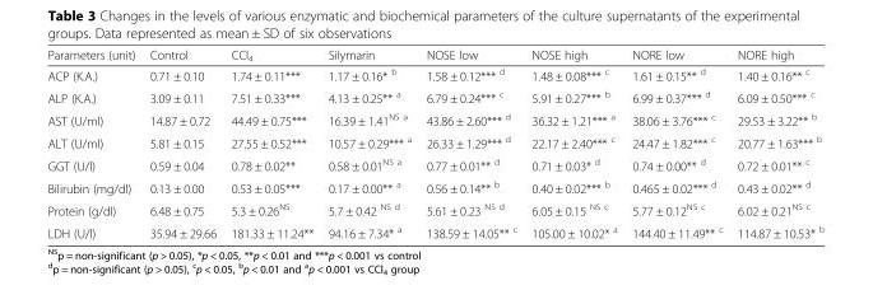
<table><thead><tr><td>Parameters (unit)</td><td>Control</td><td>CCl<sub>4</sub></td><td>Silymarin</td><td>NOSE low</td><td>NOSE high</td><td>NORE low</td><td>NORE high</td></tr></thead><tbody><tr><td>ACP (K.A.)</td><td>0.71 ± 0.10</td><td>1.74 ± 0.11***</td><td>1.17 ± 0.16* <sup>b</sup></td><td>1.58 ± 0.12*** <sup>d</sup></td><td>1.48 ± 0.08*** <sup>c</sup></td><td>1.61 ± 0.15** <sup>d</sup></td><td>1.40 ± 0.16** <sup>c</sup></td></tr><tr><td>ALP (K.A.)</td><td>3.09 ± 0.11</td><td>7.51 ± 0.33***</td><td>4.13 ± 0.25** <sup>a</sup></td><td>6.79 ± 0.24*** <sup>c</sup></td><td>5.91 ± 0.27*** <sup>b</sup></td><td>6.99 ± 0.37*** <sup>d</sup></td><td>6.09 ± 0.50*** <sup>c</sup></td></tr><tr><td>AST (U/ml)</td><td>14.87 ± 0.72</td><td>44.49 ± 0.75***</td><td>16.39 ± 1.41<sup>NS a</sup></td><td>43.86 ± 2.60*** <sup>d</sup></td><td>36.32 ± 1.21*** <sup>a</sup></td><td>38.06 ± 3.76*** <sup>c</sup></td><td>29.53 ± 3.22** <sup>b</sup></td></tr><tr><td>ALT (U/ml)</td><td>5.81 ± 0.15</td><td>27.55 ± 0.52***</td><td>10.57 ± 0.29*** <sup>a</sup></td><td>26.33 ± 1.29*** <sup>d</sup></td><td>22.17 ± 2.40*** <sup>c</sup></td><td>24.47 ± 1.82*** <sup>c</sup></td><td>20.77 ± 1.63*** <sup>b</sup></td></tr><tr><td>GGT (U/l)</td><td>0.59 ± 0.04</td><td>0.78 ± 0.02**</td><td>0.58 ± 0.01<sup>NS a</sup></td><td>0.77 ± 0.01** <sup>d</sup></td><td>0.71 ± 0.03* <sup>d</sup></td><td>0.74 ± 0.00** <sup>d</sup></td><td>0.72 ± 0.01** <sup>c</sup></td></tr><tr><td>Bilirubin (mg/dl)</td><td>0.13 ± 0.00</td><td>0.53 ± 0.05***</td><td>0.17 ± 0.00** <sup>a</sup></td><td>0.56 ± 0.14** <sup>b</sup></td><td>0.40 ± 0.02*** <sup>b</sup></td><td>0.465 ± 0.02*** <sup>d</sup></td><td>0.43 ± 0.02** <sup>d</sup></td></tr><tr><td>Protein (g/dl)</td><td>6.48 ± 0.75</td><td>5.3 ± 0.26<sup>NS</sup></td><td>5.7 ± 0.42 <sup>NS d</sup></td><td>5.61 ± 0.23 <sup>NS d</sup></td><td>6.05 ± 0.15 <sup>NS c</sup></td><td>5.77 ± 0.12<sup>NS c</sup></td><td>6.02 ± 0.21<sup>NS c</sup></td></tr><tr><td>LDH (U/l)</td><td>35.94 ± 29.66</td><td>181.33 ± 11.24**</td><td>94.16 ± 7.34* <sup>a</sup></td><td>138.59 ± 14.05** <sup>c</sup></td><td>105.00 ± 10.02* <sup>a</sup></td><td>144.40 ± 11.49** <sup>c</sup></td><td>114.87 ± 10.53* <sup>b</sup></td></tr></tbody></table>